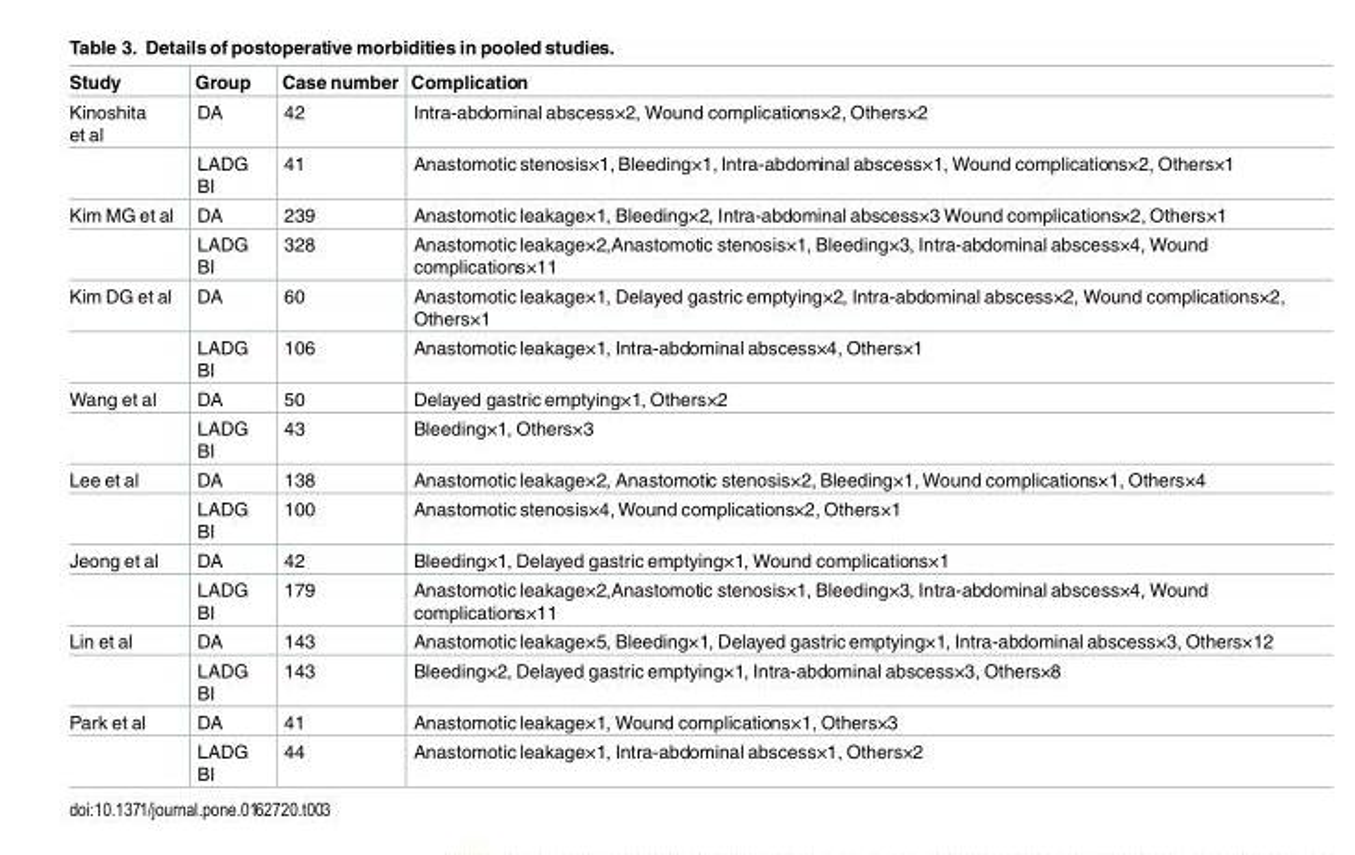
<table><thead><tr><td>Study</td><td>Group</td><td>Case number</td><td>Complication</td></tr></thead><tbody><tr><td rowspan="2">Kinoshita et al</td><td>DA</td><td>42</td><td>Intra-abdominal abscess×2, Wound complications×2, Others×2</td></tr><tr><td>LADG BI</td><td>41</td><td>Anastomotic stenosis×1, Bleeding×1, Intra-abdominal abscess×1, Wound complications×2, Others×1</td></tr><tr><td rowspan="2">Kim MG et al</td><td>DA</td><td>239</td><td>Anastomotic leakage×1, Bleeding×2, Intra-abdominal abscess×3 Wound complications×2, Others×1</td></tr><tr><td>LADG BI</td><td>328</td><td>Anastomotic leakage×2,Anastomotic stenosis×1, Bleeding×3, Intra-abdominal abscess×4, Wound complications×11</td></tr><tr><td rowspan="2">Kim DG et al</td><td>DA</td><td>60</td><td>Anastomotic leakage×1, Delayed gastric emptying×2, Intra-abdominal abscess×2, Wound complications×2, Others×1</td></tr><tr><td>LADG BI</td><td>106</td><td>Anastomotic leakage×1, Intra-abdominal abscess×4, Others×1</td></tr><tr><td rowspan="2">Wang et al</td><td>DA</td><td>50</td><td>Delayed gastric emptying×1, Others×2</td></tr><tr><td>LADG BI</td><td>43</td><td>Bleeding×1, Others×3</td></tr><tr><td rowspan="2">Lee et al</td><td>DA</td><td>138</td><td>Anastomotic leakage×2, Anastomotic stenosis×2, Bleeding×1, Wound complications×1, Others×4</td></tr><tr><td>LADG BI</td><td>100</td><td>Anastomotic stenosis×4, Wound complications×2, Others×1</td></tr><tr><td rowspan="2">Jeong et al</td><td>DA</td><td>42</td><td>Bleeding×1, Delayed gastric emptying×1, Wound complications×1</td></tr><tr><td>LADG BI</td><td>179</td><td>Anastomotic leakage×2,Anastomotic stenosis×1, Bleeding×3, Intra-abdominal abscess×4, Wound complications×11</td></tr><tr><td rowspan="2">Lin et al</td><td>DA</td><td>143</td><td>Anastomotic leakage×5, Bleeding×1, Delayed gastric emptying×1, Intra-abdominal abscess×3, Others×12</td></tr><tr><td>LADG BI</td><td>143</td><td>Bleeding×2, Delayed gastric emptying×1, Intra-abdominal abscess×3, Others×8</td></tr><tr><td rowspan="2">Park et al</td><td>DA</td><td>41</td><td>Anastomotic leakage×1, Wound complications×1, Others×3</td></tr><tr><td>LADG BI</td><td>44</td><td>Anastomotic leakage×1, Intra-abdominal abscess×1, Others×2</td></tr></tbody></table>